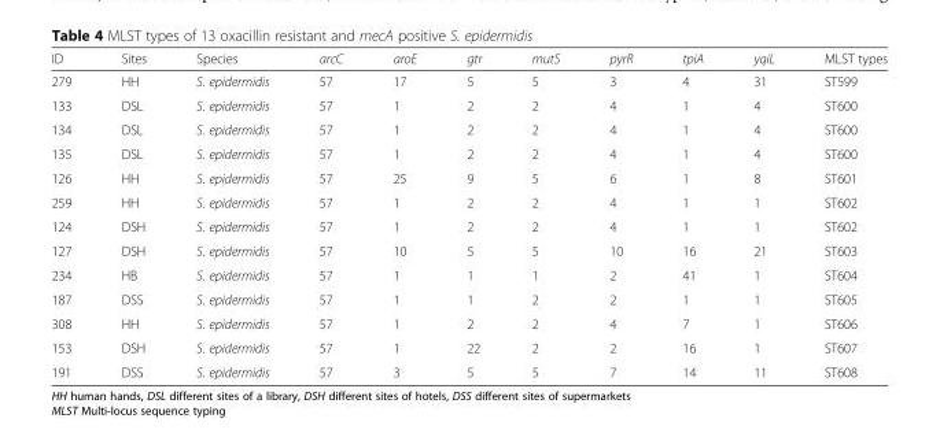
<table><thead><tr><td>ID</td><td>Sites</td><td>Species</td><td>arcC</td><td>aroE</td><td>gtr</td><td>mutS</td><td>pyrR</td><td>tpiA</td><td>yqiL</td><td>MLST types</td></tr></thead><tbody><tr><td>279</td><td>HH</td><td>S. epidermidis</td><td>57</td><td>17</td><td>5</td><td>5</td><td>3</td><td>4</td><td>31</td><td>ST599</td></tr><tr><td>133</td><td>DSL</td><td>S. epidermidis</td><td>57</td><td>1</td><td>2</td><td>2</td><td>4</td><td>1</td><td>4</td><td>ST600</td></tr><tr><td>134</td><td>DSL</td><td>S. epidermidis</td><td>57</td><td>1</td><td>2</td><td>2</td><td>4</td><td>1</td><td>4</td><td>ST600</td></tr><tr><td>135</td><td>DSL</td><td>S. epidermidis</td><td>57</td><td>1</td><td>2</td><td>2</td><td>4</td><td>1</td><td>4</td><td>ST600</td></tr><tr><td>126</td><td>HH</td><td>S. epidermidis</td><td>57</td><td>25</td><td>9</td><td>5</td><td>6</td><td>1</td><td>8</td><td>ST601</td></tr><tr><td>259</td><td>HH</td><td>S. epidermidis</td><td>57</td><td>1</td><td>2</td><td>2</td><td>4</td><td>1</td><td>1</td><td>ST602</td></tr><tr><td>124</td><td>DSH</td><td>S. epidermidis</td><td>57</td><td>1</td><td>2</td><td>2</td><td>4</td><td>1</td><td>1</td><td>ST602</td></tr><tr><td>127</td><td>DSH</td><td>S. epidermidis</td><td>57</td><td>10</td><td>5</td><td>5</td><td>10</td><td>16</td><td>21</td><td>ST603</td></tr><tr><td>234</td><td>HB</td><td>S. epidermidis</td><td>57</td><td>1</td><td>1</td><td>1</td><td>2</td><td>41</td><td>1</td><td>ST604</td></tr><tr><td>187</td><td>DSS</td><td>S. epidermidis</td><td>57</td><td>1</td><td>1</td><td>2</td><td>2</td><td>1</td><td>1</td><td>ST605</td></tr><tr><td>308</td><td>HH</td><td>S. epidermidis</td><td>57</td><td>1</td><td>2</td><td>2</td><td>4</td><td>7</td><td>1</td><td>ST606</td></tr><tr><td>153</td><td>DSH</td><td>S. epidermidis</td><td>57</td><td>1</td><td>22</td><td>2</td><td>2</td><td>16</td><td>1</td><td>ST607</td></tr><tr><td>191</td><td>DSS</td><td>S. epidermidis</td><td>57</td><td>3</td><td>5</td><td>5</td><td>7</td><td>14</td><td>11</td><td>ST608</td></tr></tbody></table>